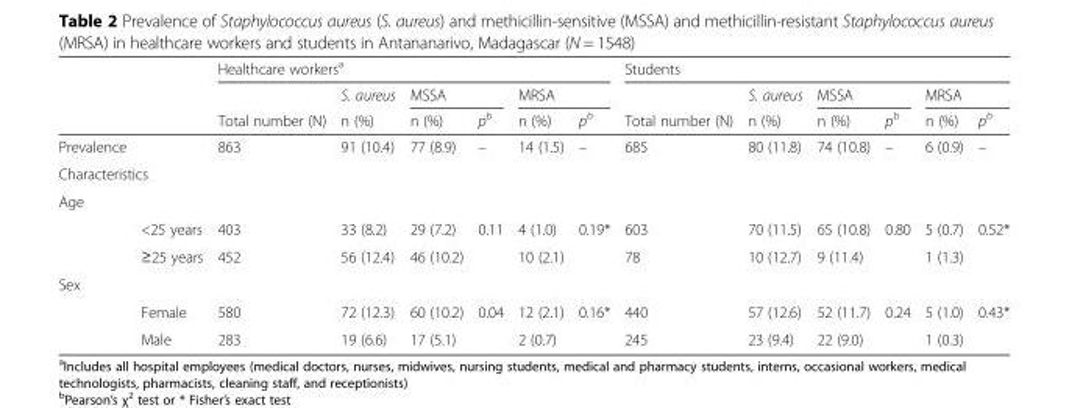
<table><thead><tr><td rowspan="3"></td><td rowspan="3"></td><td colspan="6">Healthcare workers<sup>a</sup></td><td colspan="6">Students</td></tr><tr><td rowspan="2">Total number (N)</td><td rowspan="2">S. aureus n (%)</td><td colspan="2">MSSA</td><td colspan="2">MRSA</td><td rowspan="2">Total number (N)</td><td rowspan="2">S. aureus n (%)</td><td colspan="2">MSSA</td><td colspan="2">MRSA</td></tr><tr><td>n (%)</td><td>p<sup>b</sup></td><td>n (%)</td><td>p<sup>b</sup></td><td>n (%)</td><td>p<sup>b</sup></td><td>n (%)</td><td>p<sup>b</sup></td></tr></thead><tbody><tr><td>Prevalence</td><td></td><td>863</td><td>91 (10.4)</td><td>77 (8.9)</td><td>–</td><td>14 (1.5)</td><td>–</td><td>685</td><td>80 (11.8)</td><td>74 (10.8)</td><td>–</td><td>6 (0.9)</td><td>–</td></tr><tr><td colspan="14">Characteristics</td></tr><tr><td colspan="14">Age</td></tr><tr><td></td><td>&lt;25 years</td><td>403</td><td>33 (8.2)</td><td>29 (7.2)</td><td>0.11</td><td>4 (1.0)</td><td>0.19*</td><td>603</td><td>70 (11.5)</td><td>65 (10.8)</td><td>0.80</td><td>5 (0.7)</td><td>0.52*</td></tr><tr><td></td><td>≥25 years</td><td>452</td><td>56 (12.4)</td><td>46 (10.2)</td><td></td><td>10 (2.1)</td><td></td><td>78</td><td>10 (12.7)</td><td>9 (11.4)</td><td></td><td>1 (1.3)</td><td></td></tr><tr><td colspan="14">Sex</td></tr><tr><td></td><td>Female</td><td>580</td><td>72 (12.3)</td><td>60 (10.2)</td><td>0.04</td><td>12 (2.1)</td><td>0.16*</td><td>440</td><td>57 (12.6)</td><td>52 (11.7)</td><td>0.24</td><td>5 (1.0)</td><td>0.43*</td></tr><tr><td></td><td>Male</td><td>283</td><td>19 (6.6)</td><td>17 (5.1)</td><td></td><td>2 (0.7)</td><td></td><td>245</td><td>23 (9.4)</td><td>22 (9.0)</td><td></td><td>1 (0.3)</td><td></td></tr></tbody></table>